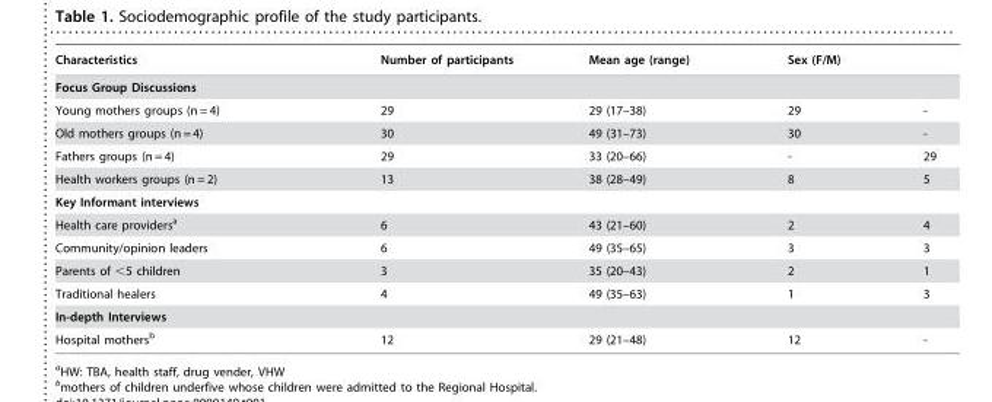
<table><thead><tr><td>Characteristics</td><td>Number of participants</td><td>Mean age (range)</td><td colspan="2">Sex (F/M)</td></tr><tr><td colspan="5">Focus Group Discussions</td></tr><tr><td>Young mothers groups (n = 4)</td><td>29</td><td>29 (17–38)</td><td>29</td><td>-</td></tr></thead><tbody><tr><td>Old mothers groups (n = 4)</td><td>30</td><td>49 (31–73)</td><td>30</td><td>-</td></tr><tr><td>Fathers groups (n = 4)</td><td>29</td><td>33 (20–66)</td><td>-</td><td>29</td></tr><tr><td>Health workers groups (n = 2)</td><td>13</td><td>38 (28–49)</td><td>8</td><td>5</td></tr><tr><td colspan="5">Key Informant interviews</td></tr><tr><td>Health care providers<sup>a</sup></td><td>6</td><td>43 (21–60)</td><td>2</td><td>4</td></tr><tr><td>Community/opinion leaders</td><td>6</td><td>49 (35–65)</td><td>3</td><td>3</td></tr><tr><td>Parents of &lt;5 children</td><td>3</td><td>35 (20–43)</td><td>2</td><td>1</td></tr><tr><td>Traditional healers</td><td>4</td><td>49 (35–63)</td><td>1</td><td>3</td></tr><tr><td colspan="5">In-depth Interviews</td></tr><tr><td>Hospital mothers<sup>b</sup></td><td>12</td><td>29 (21–48)</td><td>12</td><td>-</td></tr></tbody></table>